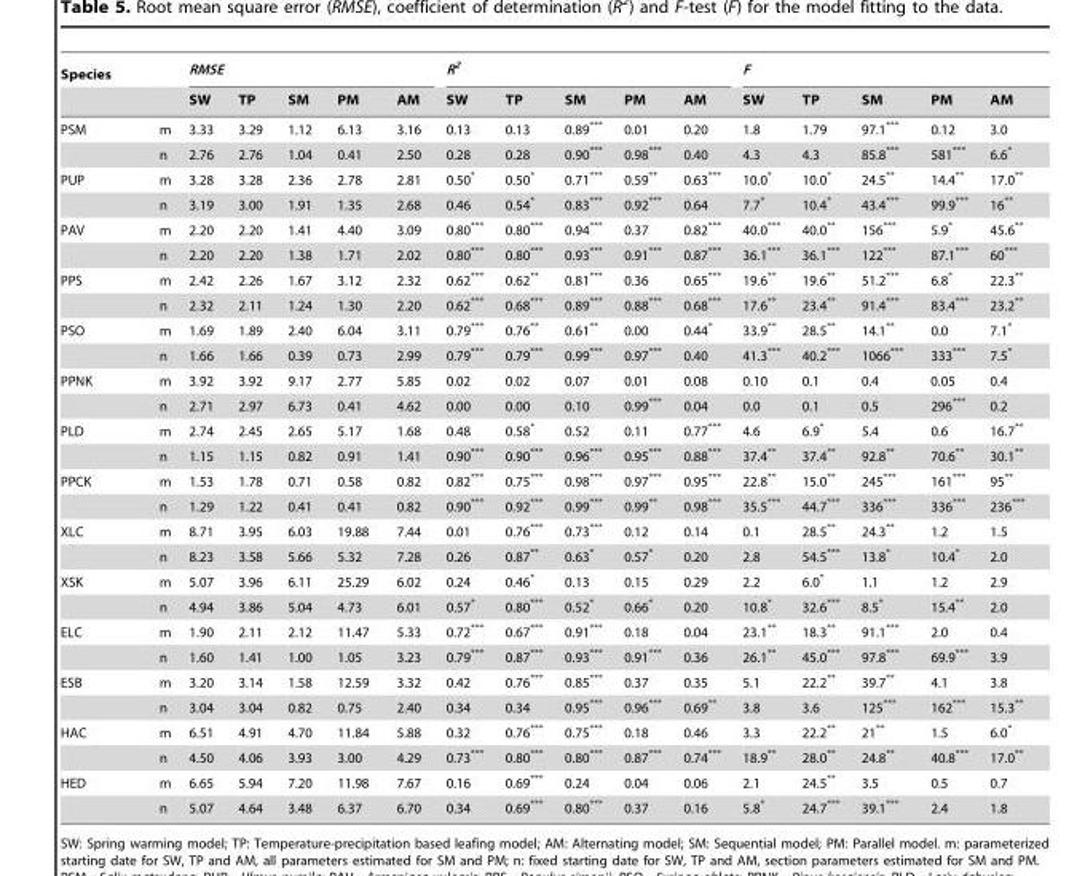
<table><thead><tr><td rowspan="2">Species</td><td rowspan="2"></td><td colspan="5">RMSE</td><td colspan="5">R<sup>2</sup></td><td colspan="5">F</td></tr><tr><td>SW</td><td>TP</td><td>SM</td><td>PM</td><td>AM</td><td>SW</td><td>TP</td><td>SM</td><td>PM</td><td>AM</td><td>SW</td><td>TP</td><td>SM</td><td>PM</td><td>AM</td></tr></thead><tbody><tr><td rowspan="2">PSM</td><td>m</td><td>3.33</td><td>3.29</td><td>1.12</td><td>6.13</td><td>3.16</td><td>0.13</td><td>0.13</td><td>0.89***</td><td>0.01</td><td>0.20</td><td>1.8</td><td>1.79</td><td>97.1***</td><td>0.12</td><td>3.0</td></tr><tr><td>n</td><td>2.76</td><td>2.76</td><td>1.04</td><td>0.41</td><td>2.50</td><td>0.28</td><td>0.28</td><td>0.90***</td><td>0.98***</td><td>0.40</td><td>4.3</td><td>4.3</td><td>85.8***</td><td>581***</td><td>6.6*</td></tr><tr><td rowspan="2">PUP</td><td>m</td><td>3.28</td><td>3.28</td><td>2.36</td><td>2.78</td><td>2.81</td><td>0.50*</td><td>0.50*</td><td>0.71***</td><td>0.59**</td><td>0.63***</td><td>10.0*</td><td>10.0*</td><td>24.5**</td><td>14.4**</td><td>17.0**</td></tr><tr><td>n</td><td>3.19</td><td>3.00</td><td>1.91</td><td>1.35</td><td>2.68</td><td>0.46</td><td>0.54*</td><td>0.83***</td><td>0.92***</td><td>0.64</td><td>7.7*</td><td>10.4*</td><td>43.4***</td><td>99.9***</td><td>16**</td></tr><tr><td rowspan="2">PAV</td><td>m</td><td>2.20</td><td>2.20</td><td>1.41</td><td>4.40</td><td>3.09</td><td>0.80***</td><td>0.80***</td><td>0.94***</td><td>0.37</td><td>0.82***</td><td>40.0***</td><td>40.0**</td><td>156***</td><td>5.9*</td><td>45.6**</td></tr><tr><td>n</td><td>2.20</td><td>2.20</td><td>1.38</td><td>1.71</td><td>2.02</td><td>0.80***</td><td>0.80***</td><td>0.93***</td><td>0.91***</td><td>0.87***</td><td>36.1***</td><td>36.1***</td><td>122***</td><td>87.1***</td><td>60***</td></tr><tr><td rowspan="2">PPS</td><td>m</td><td>2.42</td><td>2.26</td><td>1.67</td><td>3.12</td><td>2.32</td><td>0.62***</td><td>0.62**</td><td>0.81***</td><td>0.36</td><td>0.65***</td><td>19.6**</td><td>19.6**</td><td>51.2***</td><td>6.8*</td><td>22.3**</td></tr><tr><td>n</td><td>2.32</td><td>2.11</td><td>1.24</td><td>1.30</td><td>2.20</td><td>0.62***</td><td>0.68***</td><td>0.89***</td><td>0.88***</td><td>0.68***</td><td>17.6**</td><td>23.4**</td><td>91.4***</td><td>83.4***</td><td>23.2**</td></tr><tr><td rowspan="2">PSO</td><td>m</td><td>1.69</td><td>1.89</td><td>2.40</td><td>6.04</td><td>3.11</td><td>0.79***</td><td>0.76**</td><td>0.61**</td><td>0.00</td><td>0.44*</td><td>33.9**</td><td>28.5**</td><td>14.1**</td><td>0.0</td><td>7.1*</td></tr><tr><td>n</td><td>1.66</td><td>1.66</td><td>0.39</td><td>0.73</td><td>2.99</td><td>0.79***</td><td>0.79***</td><td>0.99***</td><td>0.97***</td><td>0.40</td><td>41.3***</td><td>40.2***</td><td>1066***</td><td>333***</td><td>7.5*</td></tr><tr><td rowspan="2">PPNK</td><td>m</td><td>3.92</td><td>3.92</td><td>9.17</td><td>2.77</td><td>5.85</td><td>0.02</td><td>0.02</td><td>0.07</td><td>0.01</td><td>0.08</td><td>0.10</td><td>0.1</td><td>0.4</td><td>0.05</td><td>0.4</td></tr><tr><td>n</td><td>2.71</td><td>2.97</td><td>6.73</td><td>0.41</td><td>4.62</td><td>0.00</td><td>0.00</td><td>0.10</td><td>0.99***</td><td>0.04</td><td>0.0</td><td>0.1</td><td>0.5</td><td>296***</td><td>0.2</td></tr><tr><td rowspan="2">PLD</td><td>m</td><td>2.74</td><td>2.45</td><td>2.65</td><td>5.17</td><td>1.68</td><td>0.48</td><td>0.58*</td><td>0.52</td><td>0.11</td><td>0.77***</td><td>4.6</td><td>6.9*</td><td>5.4</td><td>0.6</td><td>16.7**</td></tr><tr><td>n</td><td>1.15</td><td>1.15</td><td>0.82</td><td>0.91</td><td>1.41</td><td>0.90***</td><td>0.90***</td><td>0.96***</td><td>0.95***</td><td>0.88***</td><td>37.4**</td><td>37.4**</td><td>92.8**</td><td>70.6**</td><td>30.1**</td></tr><tr><td rowspan="2">PPCK</td><td>m</td><td>1.53</td><td>1.78</td><td>0.71</td><td>0.58</td><td>0.82</td><td>0.82***</td><td>0.75***</td><td>0.98***</td><td>0.97***</td><td>0.95***</td><td>22.8**</td><td>15.0**</td><td>245***</td><td>161***</td><td>95**</td></tr><tr><td>n</td><td>1.29</td><td>1.22</td><td>0.41</td><td>0.41</td><td>0.82</td><td>0.90***</td><td>0.92***</td><td>0.99***</td><td>0.99**</td><td>0.98***</td><td>35.5***</td><td>44.7***</td><td>336***</td><td>336***</td><td>236***</td></tr><tr><td rowspan="2">XLC</td><td>m</td><td>8.71</td><td>3.95</td><td>6.03</td><td>19.88</td><td>7.44</td><td>0.01</td><td>0.76***</td><td>0.73***</td><td>0.12</td><td>0.14</td><td>0.1</td><td>28.5**</td><td>24.3**</td><td>1.2</td><td>1.5</td></tr><tr><td>n</td><td>8.23</td><td>3.58</td><td>5.66</td><td>5.32</td><td>7.28</td><td>0.26</td><td>0.87**</td><td>0.63*</td><td>0.57*</td><td>0.20</td><td>2.8</td><td>54.5***</td><td>13.8*</td><td>10.4*</td><td>2.0</td></tr><tr><td rowspan="2">XSK</td><td>m</td><td>5.07</td><td>3.96</td><td>6.11</td><td>25.29</td><td>6.02</td><td>0.24</td><td>0.46*</td><td>0.13</td><td>0.15</td><td>0.29</td><td>2.2</td><td>6.0*</td><td>1.1</td><td>1.2</td><td>2.9</td></tr><tr><td>n</td><td>4.94</td><td>3.86</td><td>5.04</td><td>4.73</td><td>6.01</td><td>0.57*</td><td>0.80***</td><td>0.52*</td><td>0.66*</td><td>0.20</td><td>10.8*</td><td>32.6***</td><td>8.5*</td><td>15.4**</td><td>2.0</td></tr><tr><td rowspan="2">ELC</td><td>m</td><td>1.90</td><td>2.11</td><td>2.12</td><td>11.47</td><td>5.33</td><td>0.72***</td><td>0.67***</td><td>0.91***</td><td>0.18</td><td>0.04</td><td>23.1**</td><td>18.3**</td><td>91.1***</td><td>2.0</td><td>0.4</td></tr><tr><td>n</td><td>1.60</td><td>1.41</td><td>1.00</td><td>1.05</td><td>3.23</td><td>0.79***</td><td>0.87***</td><td>0.93***</td><td>0.91***</td><td>0.36</td><td>26.1**</td><td>45.0***</td><td>97.8***</td><td>69.9***</td><td>3.9</td></tr><tr><td rowspan="2">ESB</td><td>m</td><td>3.20</td><td>3.14</td><td>1.58</td><td>12.59</td><td>3.32</td><td>0.42</td><td>0.76***</td><td>0.85***</td><td>0.37</td><td>0.35</td><td>5.1</td><td>22.2**</td><td>39.7**</td><td>4.1</td><td>3.8</td></tr><tr><td>n</td><td>3.04</td><td>3.04</td><td>0.82</td><td>0.75</td><td>2.40</td><td>0.34</td><td>0.34</td><td>0.95***</td><td>0.96***</td><td>0.69**</td><td>3.8</td><td>3.6</td><td>125***</td><td>162***</td><td>15.3**</td></tr><tr><td rowspan="2">HAC</td><td>m</td><td>6.51</td><td>4.91</td><td>4.70</td><td>11.84</td><td>5.88</td><td>0.32</td><td>0.76***</td><td>0.75***</td><td>0.18</td><td>0.46</td><td>3.3</td><td>22.2**</td><td>21**</td><td>1.5</td><td>6.0*</td></tr><tr><td>n</td><td>4.50</td><td>4.06</td><td>3.93</td><td>3.00</td><td>4.29</td><td>0.73***</td><td>0.80***</td><td>0.80***</td><td>0.87***</td><td>0.74***</td><td>18.9**</td><td>28.0**</td><td>24.8**</td><td>40.8***</td><td>17.0**</td></tr><tr><td rowspan="2">HED</td><td>m</td><td>6.65</td><td>5.94</td><td>7.20</td><td>11.98</td><td>7.67</td><td>0.16</td><td>0.69***</td><td>0.24</td><td>0.04</td><td>0.06</td><td>2.1</td><td>24.5**</td><td>3.5</td><td>0.5</td><td>0.7</td></tr><tr><td>n</td><td>5.07</td><td>4.64</td><td>3.48</td><td>6.37</td><td>6.70</td><td>0.34</td><td>0.69***</td><td>0.80***</td><td>0.37</td><td>0.16</td><td>5.8*</td><td>24.7***</td><td>39.1***</td><td>2.4</td><td>1.8</td></tr></tbody></table>